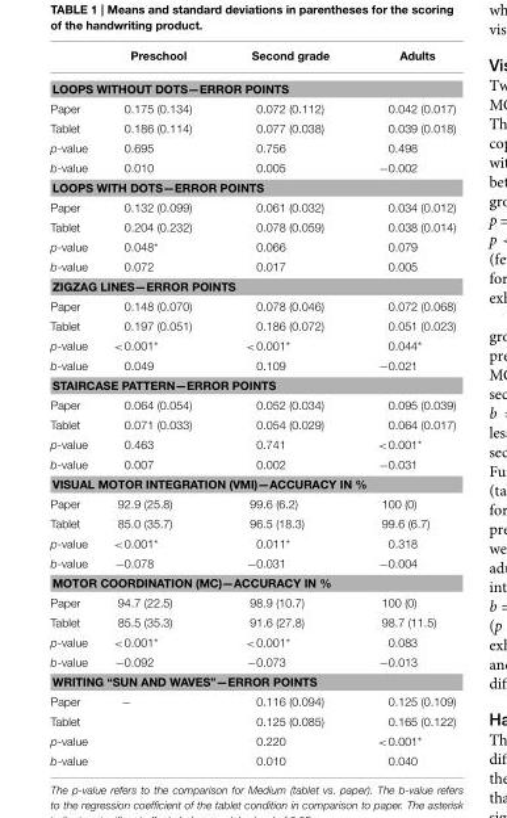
<table><thead><tr><td></td><td>Preschool</td><td>Second grade</td><td>Adults</td></tr></thead><tbody><tr><td colspan="4">LOOPS WITHOUT DOTS—ERROR POINTS</td></tr><tr><td>Paper</td><td>0.175 (0.134)</td><td>0.072 (0.112)</td><td>0.042 (0.017)</td></tr><tr><td>Tablet</td><td>0.186 (0.114)</td><td>0.077 (0.038)</td><td>0.039 (0.018)</td></tr><tr><td>p-value</td><td>0.695</td><td>0.756</td><td>0.498</td></tr><tr><td>b-value</td><td>0.010</td><td>0.005</td><td>−0.002</td></tr><tr><td colspan="4">LOOPS WITH DOTS—ERROR POINTS</td></tr><tr><td>Paper</td><td>0.132 (0.099)</td><td>0.061 (0.032)</td><td>0.034 (0.012)</td></tr><tr><td>Tablet</td><td>0.204 (0.232)</td><td>0.078 (0.059)</td><td>0.038 (0.014)</td></tr><tr><td>p-value</td><td>0.048*</td><td>0.066</td><td>0.079</td></tr><tr><td>b-value</td><td>0.072</td><td>0.017</td><td>0.005</td></tr><tr><td colspan="4">ZIGZAG LINES—ERROR POINTS</td></tr><tr><td>Paper</td><td>0.148 (0.070)</td><td>0.078 (0.046)</td><td>0.072 (0.068)</td></tr><tr><td>Tablet</td><td>0.197 (0.051)</td><td>0.186 (0.072)</td><td>0.051 (0.023)</td></tr><tr><td>p-value</td><td>&lt;0.001*</td><td>&lt;0.001*</td><td>0.044*</td></tr><tr><td>b-value</td><td>0.049</td><td>0.109</td><td>−0.021</td></tr><tr><td colspan="4">STAIRCASE PATTERN—ERROR POINTS</td></tr><tr><td>Paper</td><td>0.064 (0.054)</td><td>0.052 (0.034)</td><td>0.095 (0.039)</td></tr><tr><td>Tablet</td><td>0.071 (0.033)</td><td>0.054 (0.029)</td><td>0.064 (0.017)</td></tr><tr><td>p-value</td><td>0.463</td><td>0.741</td><td>&lt;0.001*</td></tr><tr><td>b-value</td><td>0.007</td><td>0.002</td><td>−0.031</td></tr><tr><td colspan="4">VISUAL MOTOR INTEGRATION (VMI)—ACCURACY IN %</td></tr><tr><td>Paper</td><td>92.9 (25.8)</td><td>99.6 (6.2)</td><td>100 (0)</td></tr><tr><td>Tablet</td><td>85.0 (35.7)</td><td>96.5 (18.3)</td><td>99.6 (6.7)</td></tr><tr><td>p-value</td><td>&lt;0.001*</td><td>0.011*</td><td>0.318</td></tr><tr><td>b-value</td><td>−0.078</td><td>−0.031</td><td>−0.004</td></tr><tr><td colspan="4">MOTOR COORDINATION (MC)—ACCURACY IN %</td></tr><tr><td>Paper</td><td>94.7 (22.5)</td><td>98.9 (10.7)</td><td>100 (0)</td></tr><tr><td>Tablet</td><td>85.5 (35.3)</td><td>91.6 (27.8)</td><td>98.7 (11.5)</td></tr><tr><td>p-value</td><td>&lt;0.001*</td><td>&lt;0.001*</td><td>0.083</td></tr><tr><td>b-value</td><td>−0.092</td><td>−0.073</td><td>−0.013</td></tr><tr><td colspan="4">WRITING “SUN AND WAVES”—ERROR POINTS</td></tr><tr><td>Paper</td><td>−</td><td>0.116 (0.094)</td><td>0.125 (0.109)</td></tr><tr><td>Tablet</td><td></td><td>0.125 (0.085)</td><td>0.165 (0.122)</td></tr><tr><td>p-value</td><td></td><td>0.220</td><td>&lt;0.001*</td></tr><tr><td>b-value</td><td></td><td>0.010</td><td>0.040</td></tr></tbody></table>